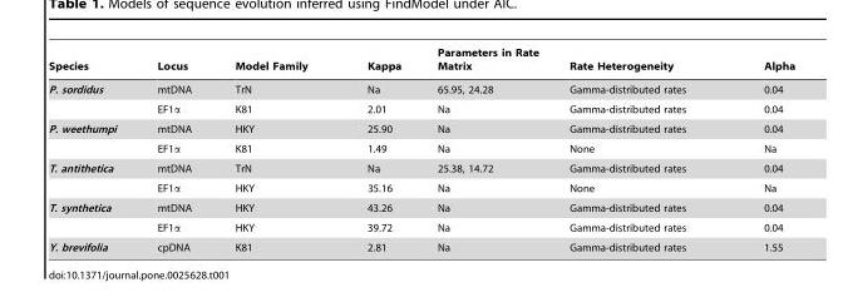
<table><thead><tr><td>Species</td><td>Locus</td><td>Model Family</td><td>Kappa</td><td>Parameters in Rate Matrix</td><td>Rate Heterogeneity</td><td>Alpha</td></tr></thead><tbody><tr><td rowspan="2">P. sordidus</td><td>mtDNA</td><td>TrN</td><td>Na</td><td>65.95, 24.28</td><td>Gamma-distributed rates</td><td>0.04</td></tr><tr><td>EF1α</td><td>K81</td><td>2.01</td><td>Na</td><td>Gamma-distributed rates</td><td>0.04</td></tr><tr><td rowspan="2">P. weethumpi</td><td>mtDNA</td><td>HKY</td><td>25.90</td><td>Na</td><td>Gamma-distributed rates</td><td>0.04</td></tr><tr><td>EF1α</td><td>K81</td><td>1.49</td><td>Na</td><td>None</td><td>Na</td></tr><tr><td rowspan="2">T. antithetica</td><td>mtDNA</td><td>TrN</td><td>Na</td><td>25.38, 14.72</td><td>Gamma-distributed rates</td><td>0.04</td></tr><tr><td>EF1α</td><td>HKY</td><td>35.16</td><td>Na</td><td>None</td><td>Na</td></tr><tr><td rowspan="2">T. synthetica</td><td>mtDNA</td><td>HKY</td><td>43.26</td><td>Na</td><td>Gamma-distributed rates</td><td>0.04</td></tr><tr><td>EF1α</td><td>HKY</td><td>39.72</td><td>Na</td><td>Gamma-distributed rates</td><td>0.04</td></tr><tr><td>Y. brevifolia</td><td>cpDNA</td><td>K81</td><td>2.81</td><td>Na</td><td>Gamma-distributed rates</td><td>1.55</td></tr></tbody></table>